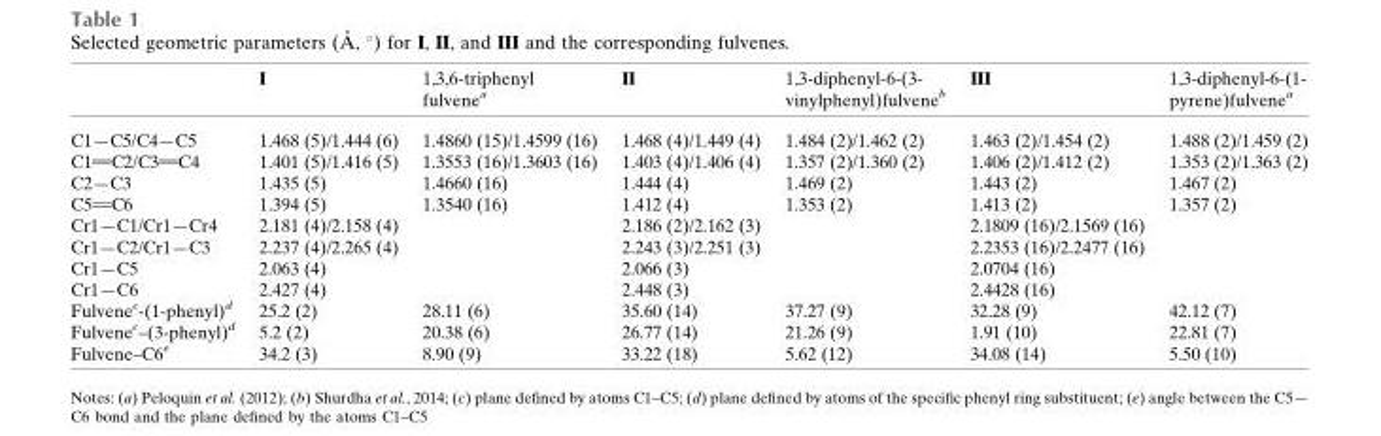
<table><thead><tr><td></td><td>I</td><td>1,3,6-triphenyl fulvenea</td><td>II</td><td>1,3-diphenyl-6-(3- vinylphenyl)fulveneb</td><td>III</td><td>1,3-diphenyl-6-(1- pyrene)fulvenea</td></tr></thead><tbody><tr><td>C1—C5/C4—C5</td><td>1.468 (5)/1.444 (6)</td><td>1.4860 (15)/1.4599 (16)</td><td>1.468 (4)/1.449 (4)</td><td>1.484 (2)/1.462 (2)</td><td>1.463 (2)/1.454 (2)</td><td>1.488 (2)/1.459 (2)</td></tr><tr><td>C1 C2/C3 C4</td><td>1.401 (5)/1.416 (5)</td><td>1.3553 (16)/1.3603 (16)</td><td>1.403 (4)/1.406 (4)</td><td>1.357 (2)/1.360 (2)</td><td>1.406 (2)/1.412 (2)</td><td>1.353 (2)/1.363 (2)</td></tr><tr><td>C2—C3</td><td>1.435 (5)</td><td>1.4660 (16)</td><td>1.444 (4)</td><td>1.469 (2)</td><td>1.443 (2)</td><td>1.467 (2)</td></tr><tr><td>C5 C6</td><td>1.394 (5)</td><td>1.3540 (16)</td><td>1.412 (4)</td><td>1.353 (2)</td><td>1.413 (2)</td><td>1.357 (2)</td></tr><tr><td>Cr1—C1/Cr1—Cr4</td><td>2.181 (4)/2.158 (4)</td><td></td><td>2.186 (2)/2.162 (3)</td><td></td><td>2.1809 (16)/2.1569 (16)</td><td></td></tr><tr><td>Cr1—C2/Cr1—C3</td><td>2.237 (4)/2.265 (4)</td><td></td><td>2.243 (3)/2.251 (3)</td><td></td><td>2.2353 (16)/2.2477 (16)</td><td></td></tr><tr><td>Cr1—C5</td><td>2.063 (4)</td><td></td><td>2.066 (3)</td><td></td><td>2.0704 (16)</td><td></td></tr><tr><td>Cr1—C6</td><td>2.427 (4)</td><td></td><td>2.448 (3)</td><td></td><td>2.4428 (16)</td><td></td></tr><tr><td>Fulvenec-(1-phenyl)d</td><td>25.2 (2)</td><td>28.11 (6)</td><td>35.60 (14)</td><td>37.27 (9)</td><td>32.28 (9)</td><td>42.12 (7)</td></tr><tr><td>Fulvenec–(3-phenyl)d</td><td>5.2 (2)</td><td>20.38 (6)</td><td>26.77 (14)</td><td>21.26 (9)</td><td>1.91 (10)</td><td>22.81 (7)</td></tr><tr><td>Fulvene–C6e</td><td>34.2 (3)</td><td>8.90 (9)</td><td>33.22 (18)</td><td>5.62 (12)</td><td>34.08 (14)</td><td>5.50 (10)</td></tr></tbody></table>